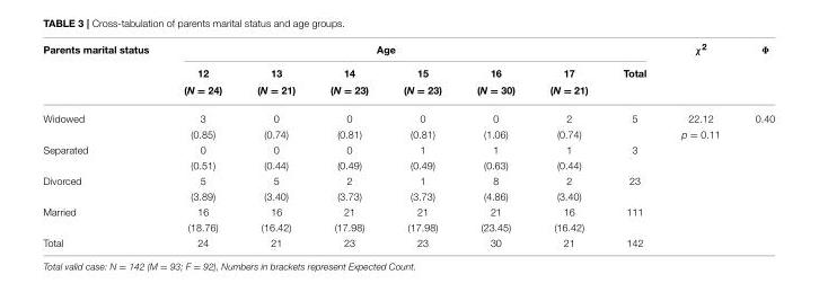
<table><thead><tr><td rowspan="3">Parents marital status</td><td colspan="7">Age</td><td rowspan="3">χ<sup>2</sup></td><td rowspan="3">Φ</td></tr><tr><td rowspan="2">12 (N = 24)</td><td rowspan="2">13 (N = 21)</td><td rowspan="2">14 (N = 23)</td><td rowspan="2">15 (N = 23)</td><td rowspan="2">16 (N = 30)</td><td rowspan="2">17 (N = 21)</td><td rowspan="2">Total</td></tr><tr></tr></thead><tbody><tr><td rowspan="2">Widowed</td><td>3</td><td>0</td><td>0</td><td>0</td><td>0</td><td>2</td><td>5</td><td>22.12</td><td>0.40</td></tr><tr><td>(0.85)</td><td>(0.74)</td><td>(0.81)</td><td>(0.81)</td><td>(1.06)</td><td>(0.74)</td><td></td><td>p = 0.11</td><td></td></tr><tr><td rowspan="2">Separated</td><td>0</td><td>0</td><td>0</td><td>1</td><td>1</td><td>1</td><td>3</td><td></td><td></td></tr><tr><td>(0.51)</td><td>(0.44)</td><td>(0.49)</td><td>(0.49)</td><td>(0.63)</td><td>(0.44)</td><td></td><td></td><td></td></tr><tr><td rowspan="2">Divorced</td><td>5</td><td>5</td><td>2</td><td>1</td><td>8</td><td>2</td><td>23</td><td></td><td></td></tr><tr><td>(3.89)</td><td>(3.40)</td><td>(3.73)</td><td>(3.73)</td><td>(4.86)</td><td>(3.40)</td><td></td><td></td><td></td></tr><tr><td rowspan="2">Married</td><td>16</td><td>16</td><td>21</td><td>21</td><td>21</td><td>16</td><td>111</td><td></td><td></td></tr><tr><td>(18.76)</td><td>(16.42)</td><td>(17.98)</td><td>(17.98)</td><td>(23.45)</td><td>(16.42)</td><td></td><td></td><td></td></tr><tr><td>Total</td><td>24</td><td>21</td><td>23</td><td>23</td><td>30</td><td>21</td><td>142</td><td></td><td></td></tr></tbody></table>